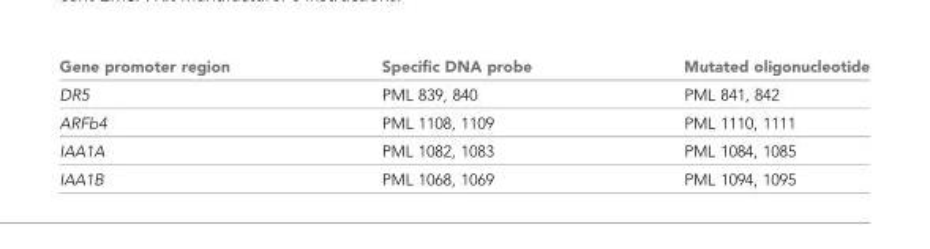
<table><thead><tr><td>Gene promoter region</td><td>Specific DNA probe</td><td>Mutated oligonucleotide</td></tr></thead><tbody><tr><td>DR5</td><td>PML 839, 840</td><td>PML 841, 842</td></tr><tr><td>ARFb4</td><td>PML 1108, 1109</td><td>PML 1110, 1111</td></tr><tr><td>IAA1A</td><td>PML 1082, 1083</td><td>PML 1084, 1085</td></tr><tr><td>IAA1B</td><td>PML 1068, 1069</td><td>PML 1094, 1095</td></tr></tbody></table>